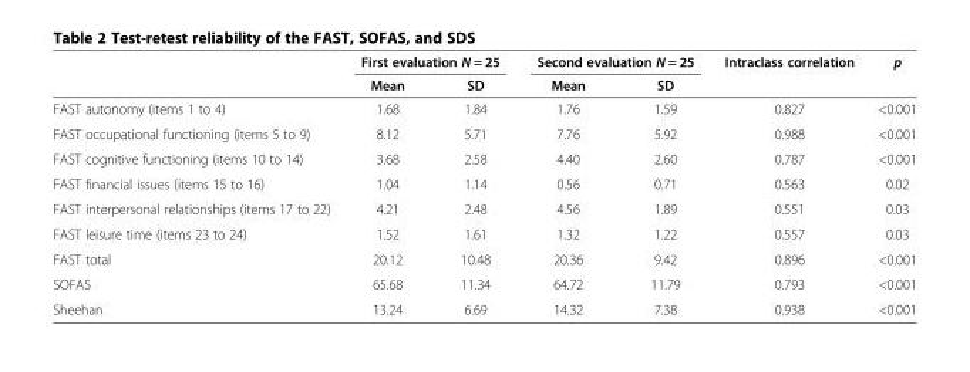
<table><thead><tr><td rowspan="2"></td><td colspan="2">First evaluation N = 25</td><td colspan="2">Second evaluation N = 25</td><td rowspan="2">Intraclass correlation</td><td rowspan="2">p</td></tr><tr><td>Mean</td><td>SD</td><td>Mean</td><td>SD</td></tr></thead><tbody><tr><td>FAST autonomy (items 1 to 4)</td><td>1.68</td><td>1.84</td><td>1.76</td><td>1.59</td><td>0.827</td><td>&lt;0.001</td></tr><tr><td>FAST occupational functioning (items 5 to 9)</td><td>8.12</td><td>5.71</td><td>7.76</td><td>5.92</td><td>0.988</td><td>&lt;0.001</td></tr><tr><td>FAST cognitive functioning (items 10 to 14)</td><td>3.68</td><td>2.58</td><td>4.40</td><td>2.60</td><td>0.787</td><td>&lt;0.001</td></tr><tr><td>FAST financial issues (items 15 to 16)</td><td>1.04</td><td>1.14</td><td>0.56</td><td>0.71</td><td>0.563</td><td>0.02</td></tr><tr><td>FAST interpersonal relationships (items 17 to 22)</td><td>4.21</td><td>2.48</td><td>4.56</td><td>1.89</td><td>0.551</td><td>0.03</td></tr><tr><td>FAST leisure time (items 23 to 24)</td><td>1.52</td><td>1.61</td><td>1.32</td><td>1.22</td><td>0.557</td><td>0.03</td></tr><tr><td>FAST total</td><td>20.12</td><td>10.48</td><td>20.36</td><td>9.42</td><td>0.896</td><td>&lt;0.001</td></tr><tr><td>SOFAS</td><td>65.68</td><td>11.34</td><td>64.72</td><td>11.79</td><td>0.793</td><td>&lt;0.001</td></tr><tr><td>Sheehan</td><td>13.24</td><td>6.69</td><td>14.32</td><td>7.38</td><td>0.938</td><td>&lt;0.001</td></tr></tbody></table>